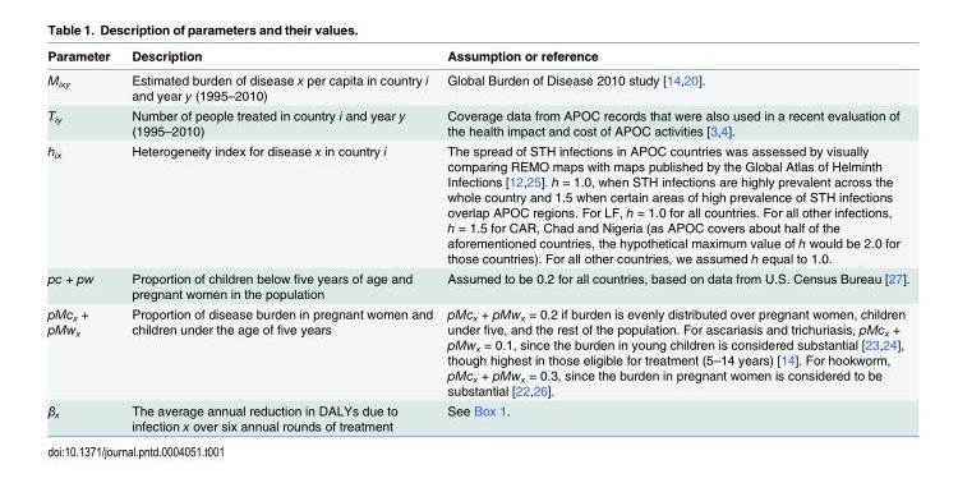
<table><thead><tr><td>Parameter</td><td>Description</td><td>Assumption or reference</td></tr></thead><tbody><tr><td>M<sub>ixy</sub></td><td>Estimated burden of disease x per capita in country i and year y (1995–2010)</td><td>Global Burden of Disease 2010 study [14,20].</td></tr><tr><td>T<sub>iy</sub></td><td>Number of people treated in country i and year y (1995–2010)</td><td>Coverage data from APOC records that were also used in a recent evaluation of the health impact and cost of APOC activities [3,4].</td></tr><tr><td>h<sub>ix</sub></td><td>Heterogeneity index for disease x in country i</td><td>The spread of STH infections in APOC countries was assessed by visually comparing REMO maps with maps published by the Global Atlas of Helminth Infections [12,25]. h = 1.0, when STH infections are highly prevalent across the whole country and 1.5 when certain areas of high prevalence of STH infections overlap APOC regions. For LF, h = 1.0 for all countries. For all other infections, h = 1.5 for CAR, Chad and Nigeria (as APOC covers about half of the aforementioned countries, the hypothetical maximum value of h would be 2.0 for those countries). For all other countries, we assumed h equal to 1.0.</td></tr><tr><td>pc + pw</td><td>Proportion of children below five years of age and pregnant women in the population</td><td>Assumed to be 0.2 for all countries, based on data from U.S. Census Bureau [27].</td></tr><tr><td>pMc<sub>x</sub> + pMw<sub>x</sub></td><td>Proportion of disease burden in pregnant women and children under the age of five years</td><td>pMc<sub>x</sub> + pMw<sub>x</sub> = 0.2 if burden is evenly distributed over pregnant women, children under five, and the rest of the population. For ascariasis and trichuriasis, pMc<sub>x</sub> + pMw<sub>x</sub> = 0.1, since the burden in young children is considered substantial [23,24], though highest in those eligible for treatment (5–14 years) [14]. For hookworm, pMc<sub>x</sub> + pMw<sub>x</sub> = 0.3, since the burden in pregnant women is considered to be substantial [22,26].</td></tr><tr><td>β<sub>x</sub></td><td>The average annual reduction in DALYs due to infection x over six annual rounds of treatment</td><td>See Box 1.</td></tr></tbody></table>